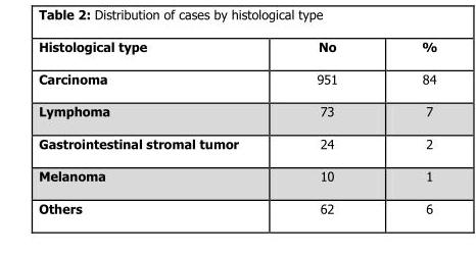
<table><thead><tr><td>Histological type</td><td>No</td><td>%</td></tr></thead><tbody><tr><td>Carcinoma</td><td>951</td><td>84</td></tr><tr><td>Lymphoma</td><td>73</td><td>7</td></tr><tr><td>Gastrointestinal stromal tumor</td><td>24</td><td>2</td></tr><tr><td>Melanoma</td><td>10</td><td>1</td></tr><tr><td>Others</td><td>62</td><td>6</td></tr></tbody></table>